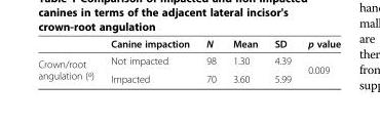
<table><thead><tr><td></td><td>Canine impaction</td><td>N</td><td>Mean</td><td>SD</td><td>p value</td></tr></thead><tbody><tr><td rowspan="2">Crown/root angulation (º)</td><td>Not impacted</td><td>98</td><td>1.30</td><td>4.39</td><td rowspan="2">0.009</td></tr><tr><td>Impacted</td><td>70</td><td>3.60</td><td>5.99</td></tr></tbody></table>